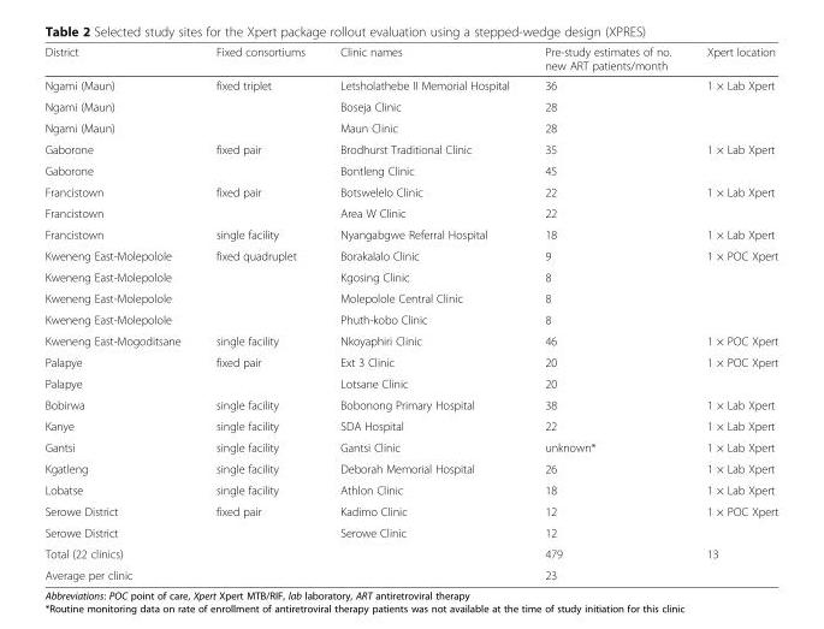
<table><thead><tr><td>District</td><td>Fixed consortiums</td><td>Clinic names</td><td>Pre-study estimates of no. new ART patients/month</td><td>Xpert location</td></tr></thead><tbody><tr><td>Ngami (Maun)</td><td rowspan="3">fixed triplet</td><td>Letsholathebe II Memorial Hospital</td><td>36</td><td rowspan="3">1 × Lab Xpert</td></tr><tr><td>Ngami (Maun)</td><td>Boseja Clinic</td><td>28</td></tr><tr><td>Ngami (Maun)</td><td>Maun Clinic</td><td>28</td></tr><tr><td>Gaborone</td><td rowspan="2">fixed pair</td><td>Brodhurst Traditional Clinic</td><td>35</td><td rowspan="2">1 × Lab Xpert</td></tr><tr><td>Gaborone</td><td>Bontleng Clinic</td><td>45</td></tr><tr><td>Francistown</td><td rowspan="2">fixed pair</td><td>Botswelelo Clinic</td><td>22</td><td rowspan="2">1 × Lab Xpert</td></tr><tr><td>Francistown</td><td>Area W Clinic</td><td>22</td></tr><tr><td>Francistown</td><td>single facility</td><td>Nyangabgwe Referral Hospital</td><td>18</td><td>1 × Lab Xpert</td></tr><tr><td>Kweneng East-Molepolole</td><td rowspan="4">fixed quadruplet</td><td>Borakalalo Clinic</td><td>9</td><td rowspan="4">1 × POC Xpert</td></tr><tr><td>Kweneng East-Molepolole</td><td>Kgosing Clinic</td><td>8</td></tr><tr><td>Kweneng East-Molepolole</td><td>Molepolole Central Clinic</td><td>8</td></tr><tr><td>Kweneng East-Molepolole</td><td>Phuth-kobo Clinic</td><td>8</td></tr><tr><td>Kweneng East-Mogoditsane</td><td>single facility</td><td>Nkoyaphiri Clinic</td><td>46</td><td>1 × POC Xpert</td></tr><tr><td>Palapye</td><td rowspan="2">fixed pair</td><td>Ext 3 Clinic</td><td>20</td><td rowspan="2">1 × POC Xpert</td></tr><tr><td>Palapye</td><td>Lotsane Clinic</td><td>20</td></tr><tr><td>Bobirwa</td><td>single facility</td><td>Bobonong Primary Hospital</td><td>38</td><td>1 × Lab Xpert</td></tr><tr><td>Kanye</td><td>single facility</td><td>SDA Hospital</td><td>22</td><td>1 × Lab Xpert</td></tr><tr><td>Gantsi</td><td>single facility</td><td>Gantsi Clinic</td><td>unknown*</td><td>1 × Lab Xpert</td></tr><tr><td>Kgatleng</td><td>single facility</td><td>Deborah Memorial Hospital</td><td>26</td><td>1 × Lab Xpert</td></tr><tr><td>Lobatse</td><td>single facility</td><td>Athlon Clinic</td><td>18</td><td>1 × Lab Xpert</td></tr><tr><td>Serowe District</td><td rowspan="2">fixed pair</td><td>Kadimo Clinic</td><td>12</td><td rowspan="2">1 × POC Xpert</td></tr><tr><td>Serowe District</td><td>Serowe Clinic</td><td>12</td></tr><tr><td>Total (22 clinics)</td><td></td><td></td><td>479</td><td>13</td></tr><tr><td>Average per clinic</td><td></td><td></td><td>23</td><td></td></tr></tbody></table>